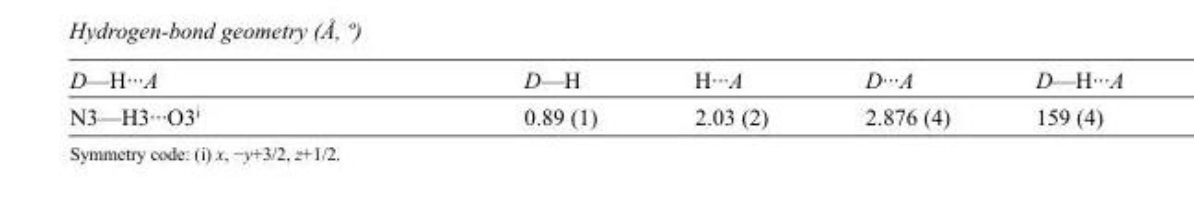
<table><tbody><tr><td>D—H···A</td><td>D—H</td><td>H···A</td><td>D···A</td><td>D—H···A</td></tr><tr><td>N3—H3···O3<sup>i</sup></td><td>0.89 (1)</td><td>2.03 (2)</td><td>2.876 (4)</td><td>159 (4)</td></tr></tbody></table>